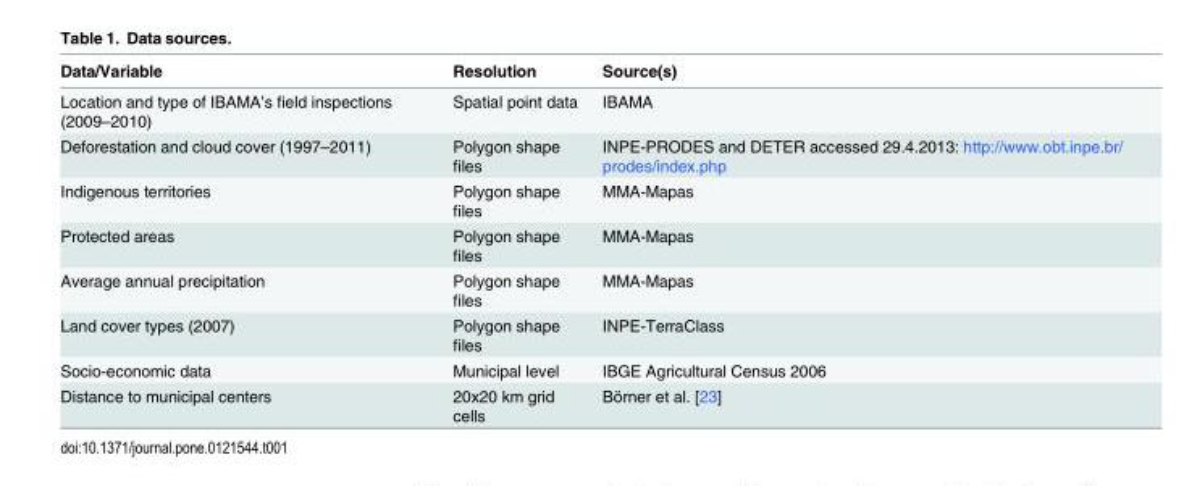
<table><thead><tr><td>Data/Variable</td><td>Resolution</td><td>Source(s)</td></tr></thead><tbody><tr><td>Location and type of IBAMA’s field inspections (2009–2010)</td><td>Spatial point data</td><td>IBAMA</td></tr><tr><td>Deforestation and cloud cover (1997–2011)</td><td>Polygon shape files</td><td>INPE-PRODES and DETER accessed 29.4.2013: http://www.obt.inpe.br/ prodes/index.php</td></tr><tr><td>Indigenous territories</td><td>Polygon shape files</td><td>MMA-Mapas</td></tr><tr><td>Protected areas</td><td>Polygon shape files</td><td>MMA-Mapas</td></tr><tr><td>Average annual precipitation</td><td>Polygon shape files</td><td>MMA-Mapas</td></tr><tr><td>Land cover types (2007)</td><td>Polygon shape files</td><td>INPE-TerraClass</td></tr><tr><td>Socio-economic data</td><td>Municipal level</td><td>IBGE Agricultural Census 2006</td></tr><tr><td>Distance to municipal centers</td><td>20x20 km grid cells</td><td>Börner et al. [23]</td></tr></tbody></table>